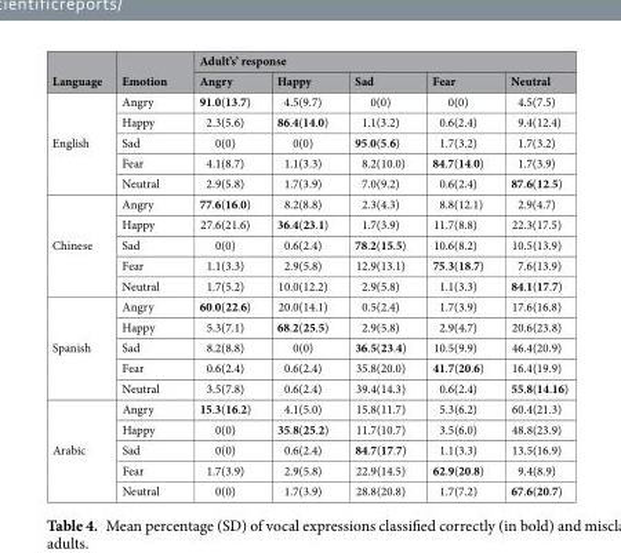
<table><thead><tr><td rowspan="2">Language</td><td rowspan="2">Emotion</td><td colspan="5">Adult’s’ response</td></tr><tr><td>Angry</td><td>Happy</td><td>Sad</td><td>Fear</td><td>Neutral</td></tr></thead><tbody><tr><td rowspan="5">English</td><td>Angry</td><td>91.0(13.7)</td><td>4.5(9.7)</td><td>0(0)</td><td>0(0)</td><td>4.5(7.5)</td></tr><tr><td>Happy</td><td>2.3(5.6)</td><td>86.4(14.0)</td><td>1.1(3.2)</td><td>0.6(2.4)</td><td>9.4(12.4)</td></tr><tr><td>Sad</td><td>0(0)</td><td>0(0)</td><td>95.0(5.6)</td><td>1.7(3.2)</td><td>1.7(3.2)</td></tr><tr><td>Fear</td><td>4.1(8.7)</td><td>1.1(3.3)</td><td>8.2(10.0)</td><td>84.7(14.0)</td><td>1.7(3.9)</td></tr><tr><td>Neutral</td><td>2.9(5.8)</td><td>1.7(3.9)</td><td>7.0(9.2)</td><td>0.6(2.4)</td><td>87.6(12.5)</td></tr><tr><td rowspan="5">Chinese</td><td>Angry</td><td>77.6(16.0)</td><td>8.2(8.8)</td><td>2.3(4.3)</td><td>8.8(12.1)</td><td>2.9(4.7)</td></tr><tr><td>Happy</td><td>27.6(21.6)</td><td>36.4(23.1)</td><td>1.7(3.9)</td><td>11.7(8.8)</td><td>22.3(17.5)</td></tr><tr><td>Sad</td><td>0(0)</td><td>0.6(2.4)</td><td>78.2(15.5)</td><td>10.6(8.2)</td><td>10.5(13.9)</td></tr><tr><td>Fear</td><td>1.1(3.3)</td><td>2.9(5.8)</td><td>12.9(13.1)</td><td>75.3(18.7)</td><td>7.6(13.9)</td></tr><tr><td>Neutral</td><td>1.7(5.2)</td><td>10.0(12.2)</td><td>2.9(5.8)</td><td>1.1(3.3)</td><td>84.1(17.7)</td></tr><tr><td rowspan="5">Spanish</td><td>Angry</td><td>60.0(22.6)</td><td>20.0(14.1)</td><td>0.5(2.4)</td><td>1.7(3.9)</td><td>17.6(16.8)</td></tr><tr><td>Happy</td><td>5.3(7.1)</td><td>68.2(25.5)</td><td>2.9(5.8)</td><td>2.9(4.7)</td><td>20.6(23.8)</td></tr><tr><td>Sad</td><td>8.2(8.8)</td><td>0(0)</td><td>36.5(23.4)</td><td>10.5(9.9)</td><td>46.4(20.9)</td></tr><tr><td>Fear</td><td>0.6(2.4)</td><td>0.6(2.4)</td><td>35.8(20.0)</td><td>41.7(20.6)</td><td>16.4(19.9)</td></tr><tr><td>Neutral</td><td>3.5(7.8)</td><td>0.6(2.4)</td><td>39.4(14.3)</td><td>0.6(2.4)</td><td>55.8(14.16)</td></tr><tr><td rowspan="5">Arabic</td><td>Angry</td><td>15.3(16.2)</td><td>4.1(5.0)</td><td>15.8(11.7)</td><td>5.3(6.2)</td><td>60.4(21.3)</td></tr><tr><td>Happy</td><td>0(0)</td><td>35.8(25.2)</td><td>11.7(10.7)</td><td>3.5(6.0)</td><td>48.8(23.9)</td></tr><tr><td>Sad</td><td>0(0)</td><td>0.6(2.4)</td><td>84.7(17.7)</td><td>1.1(3.3)</td><td>13.5(16.9)</td></tr><tr><td>Fear</td><td>1.7(3.9)</td><td>2.9(5.8)</td><td>22.9(14.5)</td><td>62.9(20.8)</td><td>9.4(8.9)</td></tr><tr><td>Neutral</td><td>0(0)</td><td>1.7(3.9)</td><td>28.8(20.8)</td><td>1.7(7.2)</td><td>67.6(20.7)</td></tr></tbody></table>